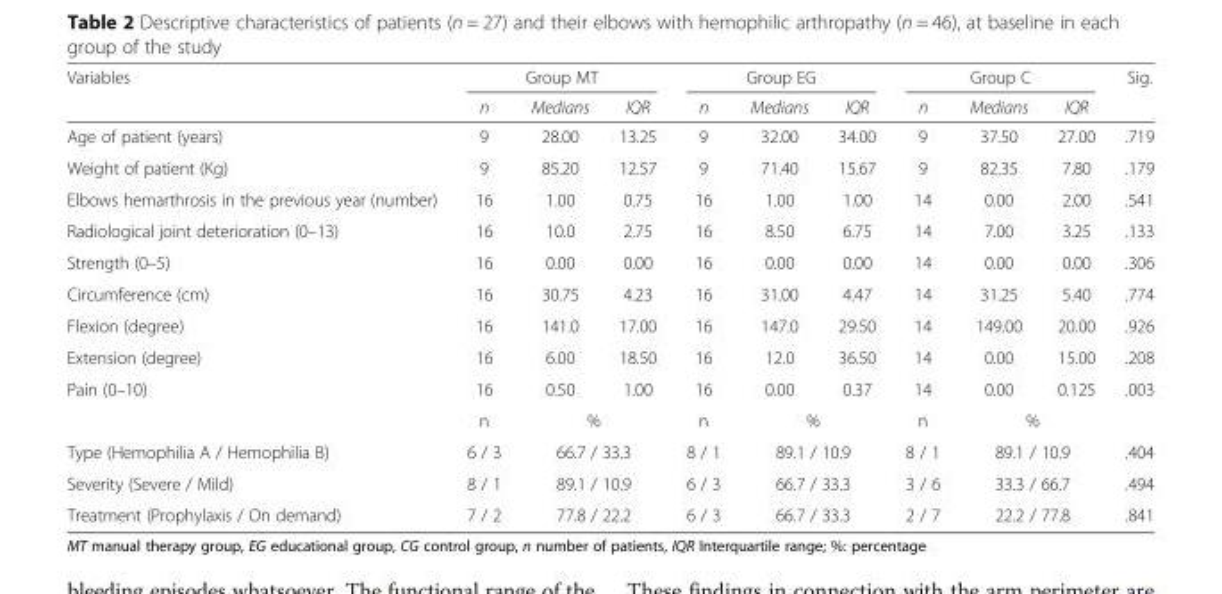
<table><thead><tr><td rowspan="2">Variables</td><td colspan="3">Group MT</td><td colspan="3">Group EG</td><td colspan="3">Group C</td><td rowspan="2">Sig.</td></tr><tr><td>n</td><td>Medians</td><td>IQR</td><td>n</td><td>Medians</td><td>IQR</td><td>n</td><td>Medians</td><td>IQR</td></tr></thead><tbody><tr><td>Age of patient (years)</td><td>9</td><td>28.00</td><td>13.25</td><td>9</td><td>32.00</td><td>34.00</td><td>9</td><td>37.50</td><td>27.00</td><td>.719</td></tr><tr><td>Weight of patient (Kg)</td><td>9</td><td>85.20</td><td>12.57</td><td>9</td><td>71.40</td><td>15.67</td><td>9</td><td>82.35</td><td>7.80</td><td>.179</td></tr><tr><td>Elbows hemarthrosis in the previous year (number)</td><td>16</td><td>1.00</td><td>0.75</td><td>16</td><td>1.00</td><td>1.00</td><td>14</td><td>0.00</td><td>2.00</td><td>.541</td></tr><tr><td>Radiological joint deterioration (0–13)</td><td>16</td><td>10.0</td><td>2.75</td><td>16</td><td>8.50</td><td>6.75</td><td>14</td><td>7.00</td><td>3.25</td><td>.133</td></tr><tr><td>Strength (0–5)</td><td>16</td><td>0.00</td><td>0.00</td><td>16</td><td>0.00</td><td>0.00</td><td>14</td><td>0.00</td><td>0.00</td><td>.306</td></tr><tr><td>Circumference (cm)</td><td>16</td><td>30.75</td><td>4.23</td><td>16</td><td>31.00</td><td>4.47</td><td>14</td><td>31.25</td><td>5.40</td><td>.774</td></tr><tr><td>Flexion (degree)</td><td>16</td><td>141.0</td><td>17.00</td><td>16</td><td>147.0</td><td>29.50</td><td>14</td><td>149.00</td><td>20.00</td><td>.926</td></tr><tr><td>Extension (degree)</td><td>16</td><td>6.00</td><td>18.50</td><td>16</td><td>12.0</td><td>36.50</td><td>14</td><td>0.00</td><td>15.00</td><td>.208</td></tr><tr><td rowspan="2">Pain (0–10)</td><td>16</td><td>0.50</td><td>1.00</td><td>16</td><td>0.00</td><td>0.37</td><td>14</td><td>0.00</td><td>0.125</td><td>.003</td></tr><tr><td>n</td><td colspan="2">%</td><td>n</td><td colspan="2">%</td><td>n</td><td colspan="2">%</td><td></td></tr><tr><td>Type (Hemophilia A / Hemophilia B)</td><td>6 / 3</td><td colspan="2">66.7 / 33.3</td><td>8 / 1</td><td colspan="2">89.1 / 10.9</td><td>8 / 1</td><td colspan="2">89.1 / 10.9</td><td>.404</td></tr><tr><td>Severity (Severe / Mild)</td><td>8 / 1</td><td colspan="2">89.1 / 10.9</td><td>6 / 3</td><td colspan="2">66.7 / 33.3</td><td>3 / 6</td><td colspan="2">33.3 / 66.7</td><td>.494</td></tr><tr><td>Treatment (Prophylaxis / On demand)</td><td>7 / 2</td><td colspan="2">77.8 / 22.2</td><td>6 / 3</td><td colspan="2">66.7 / 33.3</td><td>2 / 7</td><td colspan="2">22.2 / 77.8</td><td>.841</td></tr></tbody></table>